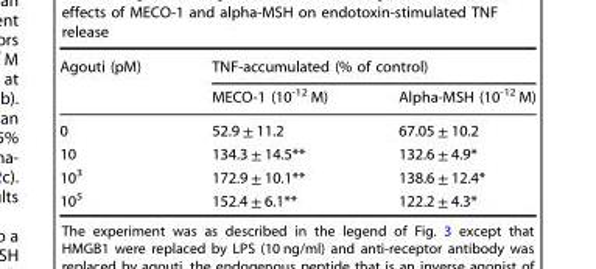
<table><thead><tr><td rowspan="2">Agouti (pM)</td><td colspan="2">TNF-accumulated (% of control)</td></tr><tr><td>MECO-1 (10<sup>-12</sup> M)</td><td>Alpha-MSH (10<sup>-12</sup> M)</td></tr></thead><tbody><tr><td>0</td><td>52.9 ± 11.2</td><td>67.05 ± 10.2</td></tr><tr><td>10</td><td>134.3 ± 14.5**</td><td>132.6 ± 4.9*</td></tr><tr><td>10<sup>3</sup></td><td>172.9 ± 10.1**</td><td>138.6 ± 12.4*</td></tr><tr><td>10<sup>5</sup></td><td>152.4 ± 6.1**</td><td>122.2 ± 4.3*</td></tr></tbody></table>